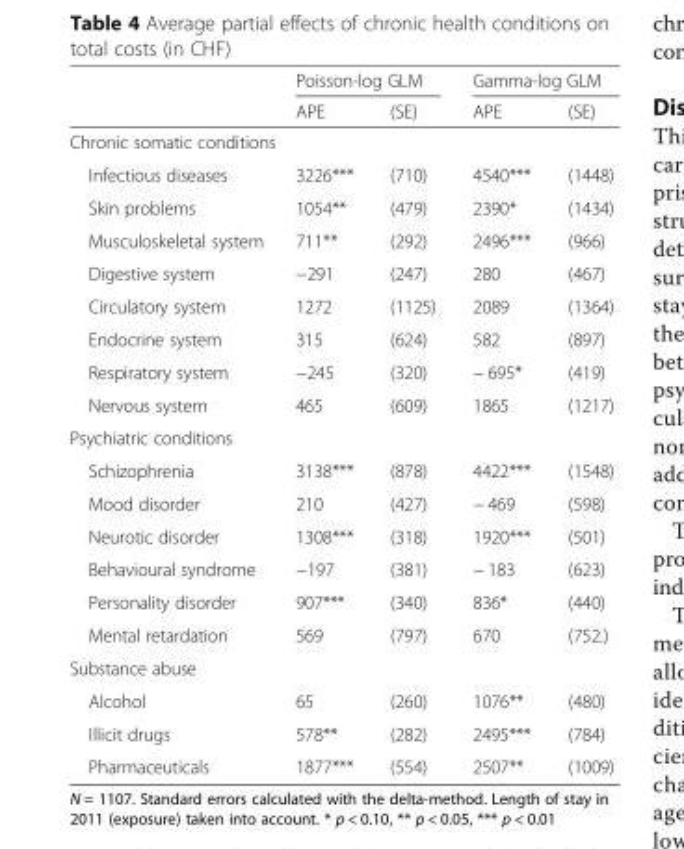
<table><thead><tr><td rowspan="2"></td><td colspan="2">Poisson-log GLM</td><td colspan="2">Gamma-log GLM</td></tr><tr><td>APE</td><td>(SE)</td><td>APE</td><td>(SE)</td></tr></thead><tbody><tr><td colspan="5">Chronic somatic conditions</td></tr><tr><td>Infectious diseases</td><td>3226***</td><td>(710)</td><td>4540***</td><td>(1448)</td></tr><tr><td>Skin problems</td><td>1054**</td><td>(479)</td><td>2390*</td><td>(1434)</td></tr><tr><td>Musculoskeletal system</td><td>711**</td><td>(292)</td><td>2496***</td><td>(966)</td></tr><tr><td>Digestive system</td><td>−291</td><td>(247)</td><td>280</td><td>(467)</td></tr><tr><td>Circulatory system</td><td>1272</td><td>(1125)</td><td>2089</td><td>(1364)</td></tr><tr><td>Endocrine system</td><td>315</td><td>(624)</td><td>582</td><td>(897)</td></tr><tr><td>Respiratory system</td><td>−245</td><td>(320)</td><td>− 695*</td><td>(419)</td></tr><tr><td>Nervous system</td><td>465</td><td>(609)</td><td>1865</td><td>(1217)</td></tr><tr><td colspan="5">Psychiatric conditions</td></tr><tr><td>Schizophrenia</td><td>3138***</td><td>(878)</td><td>4422***</td><td>(1548)</td></tr><tr><td>Mood disorder</td><td>210</td><td>(427)</td><td>− 469</td><td>(598)</td></tr><tr><td>Neurotic disorder</td><td>1308***</td><td>(318)</td><td>1920***</td><td>(501)</td></tr><tr><td>Behavioural syndrome</td><td>−197</td><td>(381)</td><td>− 183</td><td>(623)</td></tr><tr><td>Personality disorder</td><td>907***</td><td>(340)</td><td>836*</td><td>(440)</td></tr><tr><td>Mental retardation</td><td>569</td><td>(797)</td><td>670</td><td>(752.)</td></tr><tr><td colspan="5">Substance abuse</td></tr><tr><td>Alcohol</td><td>65</td><td>(260)</td><td>1076**</td><td>(480)</td></tr><tr><td>Illicit drugs</td><td>578**</td><td>(282)</td><td>2495***</td><td>(784)</td></tr><tr><td>Pharmaceuticals</td><td>1877***</td><td>(554)</td><td>2507**</td><td>(1009)</td></tr></tbody></table>